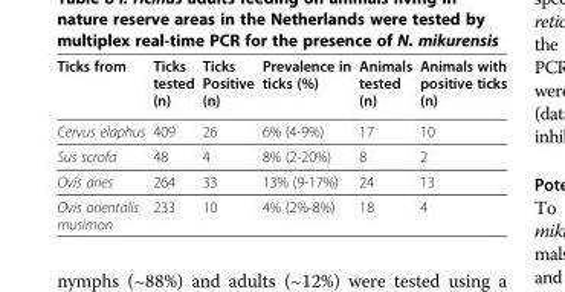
<table><thead><tr><td>Ticks from</td><td>Ticks tested (n)</td><td>Ticks Positive (n)</td><td>Prevalence in ticks (%)</td><td>Animals tested (n)</td><td>Animals with positive ticks (n)</td></tr></thead><tbody><tr><td>Cervus elaphus</td><td>409</td><td>26</td><td>6% (4-9%)</td><td>17</td><td>10</td></tr><tr><td>Sus scrofa</td><td>48</td><td>4</td><td>8% (2-20%)</td><td>8</td><td>2</td></tr><tr><td>Ovis aries</td><td>264</td><td>33</td><td>13% (9-17%)</td><td>24</td><td>13</td></tr><tr><td>Ovis orientalis musimon</td><td>233</td><td>10</td><td>4% (2%-8%)</td><td>18</td><td>4</td></tr></tbody></table>